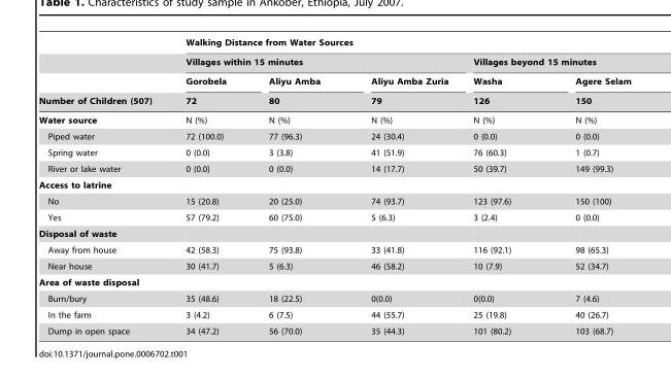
<table><thead><tr><td rowspan="4">Number of Children (507)</td><td colspan="5">Walking Distance from Water Sources</td></tr><tr><td colspan="3">Villages within 15 minutes</td><td colspan="2">Villages beyond 15 minutes</td></tr><tr><td rowspan="2">Gorobela 72</td><td rowspan="2">Aliyu Amba 80</td><td rowspan="2">Aliyu Amba Zuria 79</td><td rowspan="2">Washa 126</td><td rowspan="2">Agere Selam 150</td></tr><tr></tr></thead><tbody><tr><td>Water source</td><td>N (%)</td><td>N (%)</td><td>N (%)</td><td>N (%)</td><td>N (%)</td></tr><tr><td>Piped water</td><td>72 (100.0)</td><td>77 (96.3)</td><td>24 (30.4)</td><td>0 (0.0)</td><td>0 (0.0)</td></tr><tr><td>Spring water</td><td>0 (0.0)</td><td>3 (3.8)</td><td>41 (51.9)</td><td>76 (60.3)</td><td>1 (0.7)</td></tr><tr><td>River or lake water</td><td>0 (0.0)</td><td>0 (0.0)</td><td>14 (17.7)</td><td>50 (39.7)</td><td>149 (99.3)</td></tr><tr><td colspan="6">Access to latrine</td></tr><tr><td>No</td><td>15 (20.8)</td><td>20 (25.0)</td><td>74 (93.7)</td><td>123 (97.6)</td><td>150 (100)</td></tr><tr><td>Yes</td><td>57 (79.2)</td><td>60 (75.0)</td><td>5 (6.3)</td><td>3 (2.4)</td><td>0 (0.0)</td></tr><tr><td colspan="6">Disposal of waste</td></tr><tr><td>Away from house</td><td>42 (58.3)</td><td>75 (93.8)</td><td>33 (41.8)</td><td>116 (92.1)</td><td>98 (65.3)</td></tr><tr><td>Near house</td><td>30 (41.7)</td><td>5 (6.3)</td><td>46 (58.2)</td><td>10 (7.9)</td><td>52 (34.7)</td></tr><tr><td colspan="6">Area of waste disposal</td></tr><tr><td>Burn/bury</td><td>35 (48.6)</td><td>18 (22.5)</td><td>0(0.0)</td><td>0(0.0)</td><td>7 (4.6)</td></tr><tr><td>In the farm</td><td>3 (4.2)</td><td>6 (7.5)</td><td>44 (55.7)</td><td>25 (19.8)</td><td>40 (26.7)</td></tr><tr><td>Dump in open space</td><td>34 (47.2)</td><td>56 (70.0)</td><td>35 (44.3)</td><td>101 (80.2)</td><td>103 (68.7)</td></tr></tbody></table>